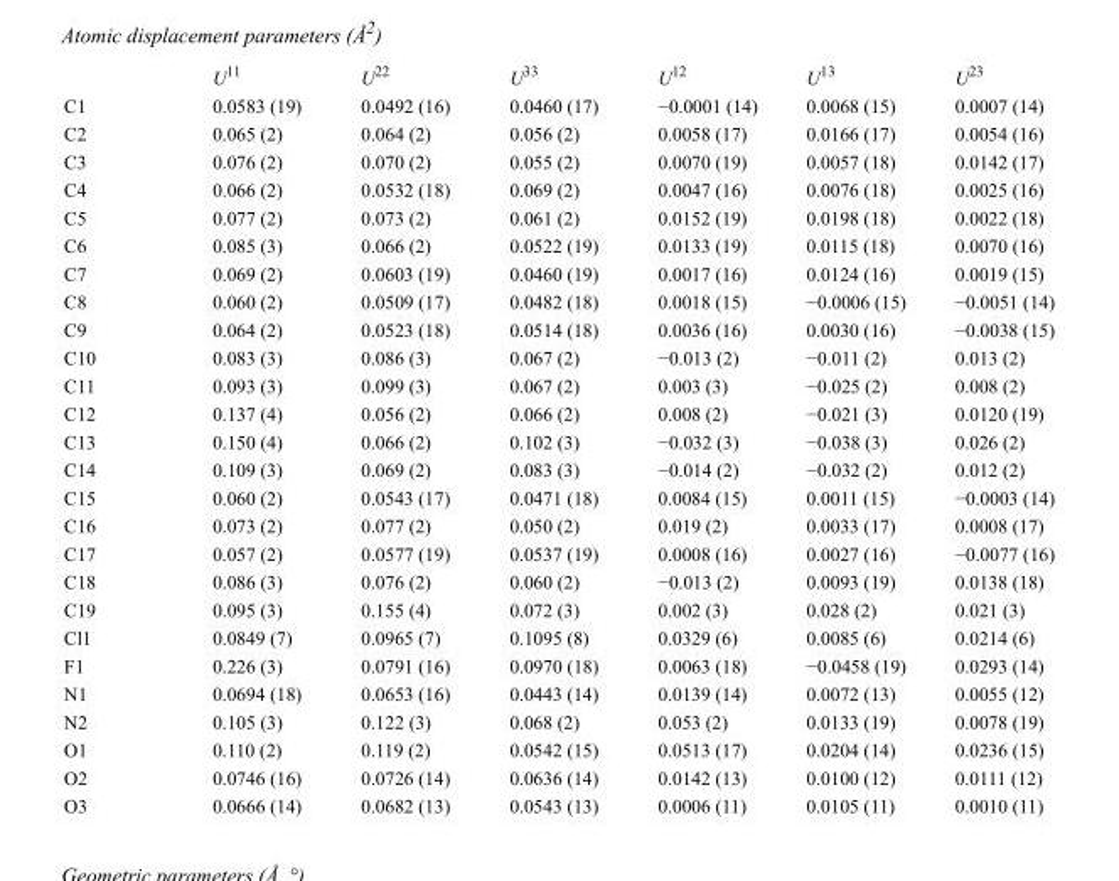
<table><thead><tr><td></td><td>U<sup>11</sup></td><td>U<sup>22</sup></td><td>U<sup>33</sup></td><td>U<sup>12</sup></td><td>U<sup>13</sup></td><td>U<sup>23</sup></td></tr></thead><tbody><tr><td>C1</td><td>0.0583 (19)</td><td>0.0492 (16)</td><td>0.0460 (17)</td><td>−0.0001 (14)</td><td>0.0068 (15)</td><td>0.0007 (14)</td></tr><tr><td>C2</td><td>0.065 (2)</td><td>0.064 (2)</td><td>0.056 (2)</td><td>0.0058 (17)</td><td>0.0166 (17)</td><td>0.0054 (16)</td></tr><tr><td>C3</td><td>0.076 (2)</td><td>0.070 (2)</td><td>0.055 (2)</td><td>0.0070 (19)</td><td>0.0057 (18)</td><td>0.0142 (17)</td></tr><tr><td>C4</td><td>0.066 (2)</td><td>0.0532 (18)</td><td>0.069 (2)</td><td>0.0047 (16)</td><td>0.0076 (18)</td><td>0.0025 (16)</td></tr><tr><td>C5</td><td>0.077 (2)</td><td>0.073 (2)</td><td>0.061 (2)</td><td>0.0152 (19)</td><td>0.0198 (18)</td><td>0.0022 (18)</td></tr><tr><td>C6</td><td>0.085 (3)</td><td>0.066 (2)</td><td>0.0522 (19)</td><td>0.0133 (19)</td><td>0.0115 (18)</td><td>0.0070 (16)</td></tr><tr><td>C7</td><td>0.069 (2)</td><td>0.0603 (19)</td><td>0.0460 (19)</td><td>0.0017 (16)</td><td>0.0124 (16)</td><td>0.0019 (15)</td></tr><tr><td>C8</td><td>0.060 (2)</td><td>0.0509 (17)</td><td>0.0482 (18)</td><td>0.0018 (15)</td><td>−0.0006 (15)</td><td>−0.0051 (14)</td></tr><tr><td>C9</td><td>0.064 (2)</td><td>0.0523 (18)</td><td>0.0514 (18)</td><td>0.0036 (16)</td><td>0.0030 (16)</td><td>−0.0038 (15)</td></tr><tr><td>C10</td><td>0.083 (3)</td><td>0.086 (3)</td><td>0.067 (2)</td><td>−0.013 (2)</td><td>−0.011 (2)</td><td>0.013 (2)</td></tr><tr><td>C11</td><td>0.093 (3)</td><td>0.099 (3)</td><td>0.067 (2)</td><td>0.003 (3)</td><td>−0.025 (2)</td><td>0.008 (2)</td></tr><tr><td>C12</td><td>0.137 (4)</td><td>0.056 (2)</td><td>0.066 (2)</td><td>0.008 (2)</td><td>−0.021 (3)</td><td>0.0120 (19)</td></tr><tr><td>C13</td><td>0.150 (4)</td><td>0.066 (2)</td><td>0.102 (3)</td><td>−0.032 (3)</td><td>−0.038 (3)</td><td>0.026 (2)</td></tr><tr><td>C14</td><td>0.109 (3)</td><td>0.069 (2)</td><td>0.083 (3)</td><td>−0.014 (2)</td><td>−0.032 (2)</td><td>0.012 (2)</td></tr><tr><td>C15</td><td>0.060 (2)</td><td>0.0543 (17)</td><td>0.0471 (18)</td><td>0.0084 (15)</td><td>0.0011 (15)</td><td>−0.0003 (14)</td></tr><tr><td>C16</td><td>0.073 (2)</td><td>0.077 (2)</td><td>0.050 (2)</td><td>0.019 (2)</td><td>0.0033 (17)</td><td>0.0008 (17)</td></tr><tr><td>C17</td><td>0.057 (2)</td><td>0.0577 (19)</td><td>0.0537 (19)</td><td>0.0008 (16)</td><td>0.0027 (16)</td><td>−0.0077 (16)</td></tr><tr><td>C18</td><td>0.086 (3)</td><td>0.076 (2)</td><td>0.060 (2)</td><td>−0.013 (2)</td><td>0.0093 (19)</td><td>0.0138 (18)</td></tr><tr><td>C19</td><td>0.095 (3)</td><td>0.155 (4)</td><td>0.072 (3)</td><td>0.002 (3)</td><td>0.028 (2)</td><td>0.021 (3)</td></tr><tr><td>Cl1</td><td>0.0849 (7)</td><td>0.0965 (7)</td><td>0.1095 (8)</td><td>0.0329 (6)</td><td>0.0085 (6)</td><td>0.0214 (6)</td></tr><tr><td>F1</td><td>0.226 (3)</td><td>0.0791 (16)</td><td>0.0970 (18)</td><td>0.0063 (18)</td><td>−0.0458 (19)</td><td>0.0293 (14)</td></tr><tr><td>N1</td><td>0.0694 (18)</td><td>0.0653 (16)</td><td>0.0443 (14)</td><td>0.0139 (14)</td><td>0.0072 (13)</td><td>0.0055 (12)</td></tr><tr><td>N2</td><td>0.105 (3)</td><td>0.122 (3)</td><td>0.068 (2)</td><td>0.053 (2)</td><td>0.0133 (19)</td><td>0.0078 (19)</td></tr><tr><td>O1</td><td>0.110 (2)</td><td>0.119 (2)</td><td>0.0542 (15)</td><td>0.0513 (17)</td><td>0.0204 (14)</td><td>0.0236 (15)</td></tr><tr><td>O2</td><td>0.0746 (16)</td><td>0.0726 (14)</td><td>0.0636 (14)</td><td>0.0142 (13)</td><td>0.0100 (12)</td><td>0.0111 (12)</td></tr><tr><td>O3</td><td>0.0666 (14)</td><td>0.0682 (13)</td><td>0.0543 (13)</td><td>0.0006 (11)</td><td>0.0105 (11)</td><td>0.0010 (11)</td></tr></tbody></table>